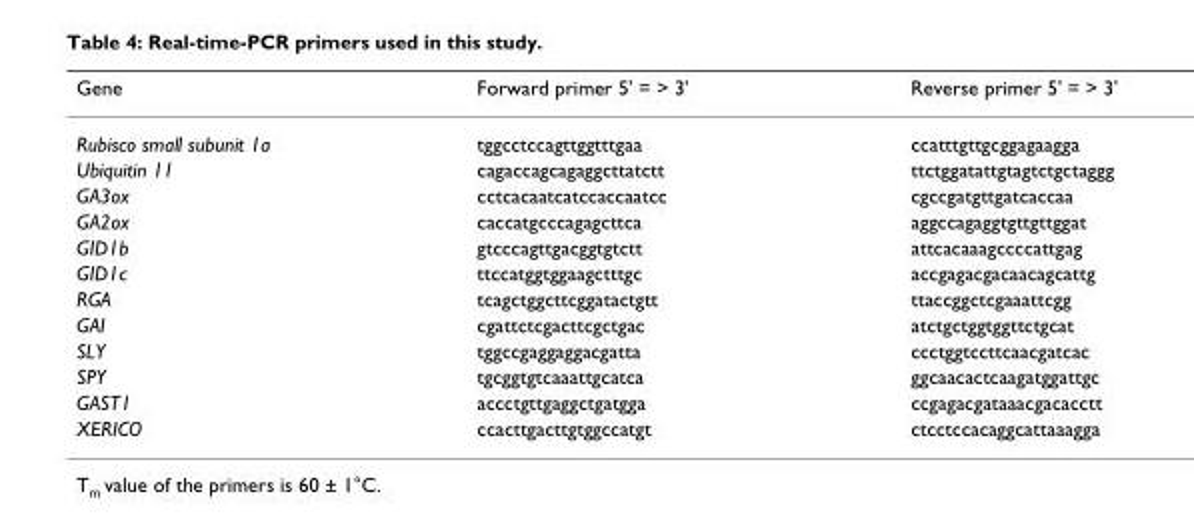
<table><thead><tr><td>Gene</td><td>Forward primer 5&#x27; = &gt; 3&#x27;</td><td>Reverse primer 5&#x27; = &gt; 3&#x27;</td></tr></thead><tbody><tr><td>Rubisco small subunit 1a</td><td>tggcctccagttggtttgaa</td><td>ccatttgttgcggagaagga</td></tr><tr><td>Ubiquitin 11</td><td>cagaccagcagaggcttatctt</td><td>ttctggatattgtagtctgctaggg</td></tr><tr><td>GA3ox</td><td>cctcacaatcatccaccaatcc</td><td>cgccgatgttgatcaccaa</td></tr><tr><td>GA2ox</td><td>caccatgcccagagcttca</td><td>aggccagaggtgttgttggat</td></tr><tr><td>GID1b</td><td>gtcccagttgacggtgtctt</td><td>attcacaaagccccattgag</td></tr><tr><td>GID1c</td><td>ttccatggtggaagctttgc</td><td>accgagacgacaacagcattg</td></tr><tr><td>RGA</td><td>tcagctggcttcggatactgtt</td><td>ttaccggctcgaaattcgg</td></tr><tr><td>GAI</td><td>cgattctcgacttcgctgac</td><td>atctgctggtggttctgcat</td></tr><tr><td>SLY</td><td>tggccgaggaggacgatta</td><td>ccctggtccttcaacgatcac</td></tr><tr><td>SPY</td><td>tgcggtgtcaaattgcatca</td><td>ggcaacactcaagatggattgc</td></tr><tr><td>GAST1</td><td>accctgttgaggctgatgga</td><td>ccgagacgataaacgacacctt</td></tr><tr><td>XERICO</td><td>ccacttgacttgtggccatgt</td><td>ctcctccacaggcattaaagga</td></tr></tbody></table>